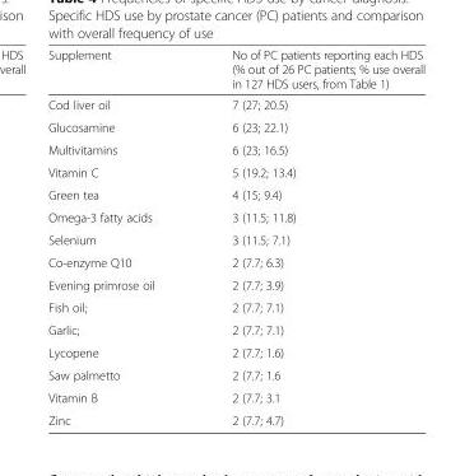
<table><thead><tr><td>Supplement</td><td>No of PC patients reporting each HDS (% out of 26 PC patients; % use overall in 127 HDS users, from Table 1)</td></tr></thead><tbody><tr><td>Cod liver oil</td><td>7 (27; 20.5)</td></tr><tr><td>Glucosamine</td><td>6 (23; 22.1)</td></tr><tr><td>Multivitamins</td><td>6 (23; 16.5)</td></tr><tr><td>Vitamin C</td><td>5 (19.2; 13.4)</td></tr><tr><td>Green tea</td><td>4 (15; 9.4)</td></tr><tr><td>Omega-3 fatty acids</td><td>3 (11.5; 11.8)</td></tr><tr><td>Selenium</td><td>3 (11.5; 7.1)</td></tr><tr><td>Co-enzyme Q10</td><td>2 (7.7; 6.3)</td></tr><tr><td>Evening primrose oil</td><td>2 (7.7; 3.9)</td></tr><tr><td>Fish oil;</td><td>2 (7.7; 7.1)</td></tr><tr><td>Garlic;</td><td>2 (7.7; 7.1)</td></tr><tr><td>Lycopene</td><td>2 (7.7; 1.6)</td></tr><tr><td>Saw palmetto</td><td>2 (7.7; 1.6</td></tr><tr><td>Vitamin B</td><td>2 (7.7; 3.1</td></tr><tr><td>Zinc</td><td>2 (7.7; 4.7)</td></tr></tbody></table>